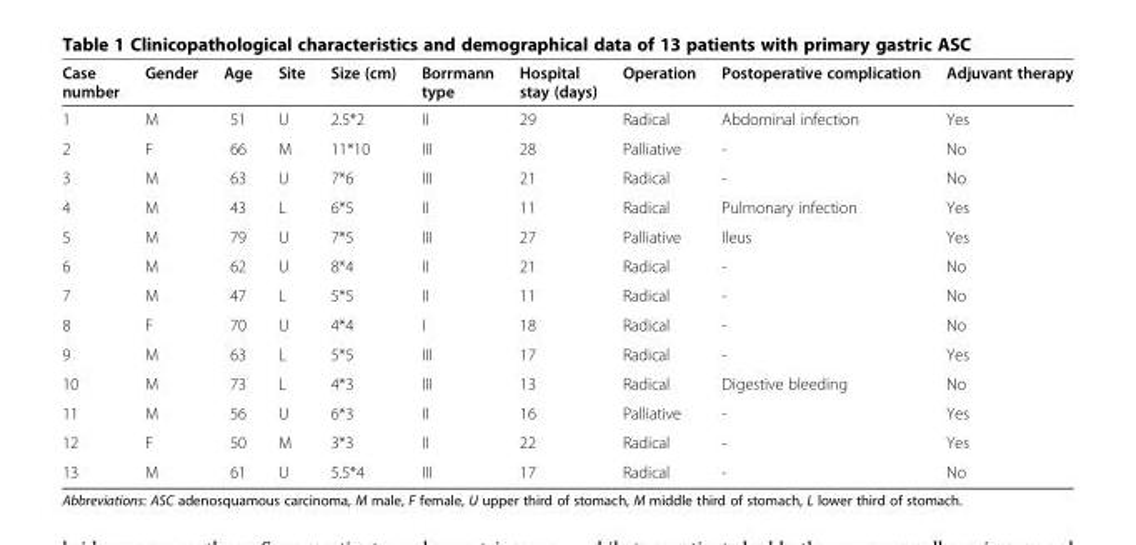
<table><thead><tr><td>Case number</td><td>Gender</td><td>Age</td><td>Site</td><td>Size (cm)</td><td>Borrmann type</td><td>Hospital stay (days)</td><td>Operation</td><td>Postoperative complication</td><td>Adjuvant therapy</td></tr></thead><tbody><tr><td>1</td><td>M</td><td>51</td><td>U</td><td>2.5*2</td><td>II</td><td>29</td><td>Radical</td><td>Abdominal infection</td><td>Yes</td></tr><tr><td>2</td><td>F</td><td>66</td><td>M</td><td>11*10</td><td>III</td><td>28</td><td>Palliative</td><td>-</td><td>No</td></tr><tr><td>3</td><td>M</td><td>63</td><td>U</td><td>7*6</td><td>III</td><td>21</td><td>Radical</td><td>-</td><td>No</td></tr><tr><td>4</td><td>M</td><td>43</td><td>L</td><td>6*5</td><td>II</td><td>11</td><td>Radical</td><td>Pulmonary infection</td><td>Yes</td></tr><tr><td>5</td><td>M</td><td>79</td><td>U</td><td>7*5</td><td>III</td><td>27</td><td>Palliative</td><td>Ileus</td><td>Yes</td></tr><tr><td>6</td><td>M</td><td>62</td><td>U</td><td>8*4</td><td>II</td><td>21</td><td>Radical</td><td>-</td><td>No</td></tr><tr><td>7</td><td>M</td><td>47</td><td>L</td><td>5*5</td><td>II</td><td>11</td><td>Radical</td><td>-</td><td>No</td></tr><tr><td>8</td><td>F</td><td>70</td><td>U</td><td>4*4</td><td>I</td><td>18</td><td>Radical</td><td>-</td><td>No</td></tr><tr><td>9</td><td>M</td><td>63</td><td>L</td><td>5*5</td><td>III</td><td>17</td><td>Radical</td><td>-</td><td>Yes</td></tr><tr><td>10</td><td>M</td><td>73</td><td>L</td><td>4*3</td><td>III</td><td>13</td><td>Radical</td><td>Digestive bleeding</td><td>No</td></tr><tr><td>11</td><td>M</td><td>56</td><td>U</td><td>6*3</td><td>II</td><td>16</td><td>Palliative</td><td>-</td><td>Yes</td></tr><tr><td>12</td><td>F</td><td>50</td><td>M</td><td>3*3</td><td>II</td><td>22</td><td>Radical</td><td>-</td><td>Yes</td></tr><tr><td>13</td><td>M</td><td>61</td><td>U</td><td>5.5*4</td><td>III</td><td>17</td><td>Radical</td><td>-</td><td>No</td></tr></tbody></table>